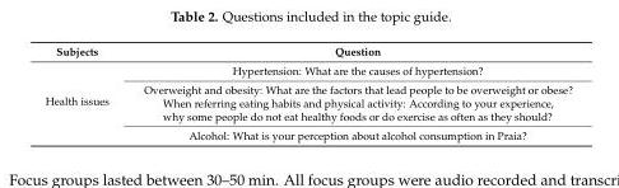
<table><thead><tr><td>Subjects</td><td>Question</td></tr></thead><tbody><tr><td rowspan="3">Health issues</td><td>Hypertension: What are the causes of hypertension?</td></tr><tr><td>Overweight and obesity: What are the factors that lead people to be overweight or obese? When referring eating habits and physical activity: According to your experience, why some people do not eat healthy foods or do exercise as often as they should?</td></tr><tr><td>Alcohol: What is your perception about alcohol consumption in Praia?</td></tr></tbody></table>